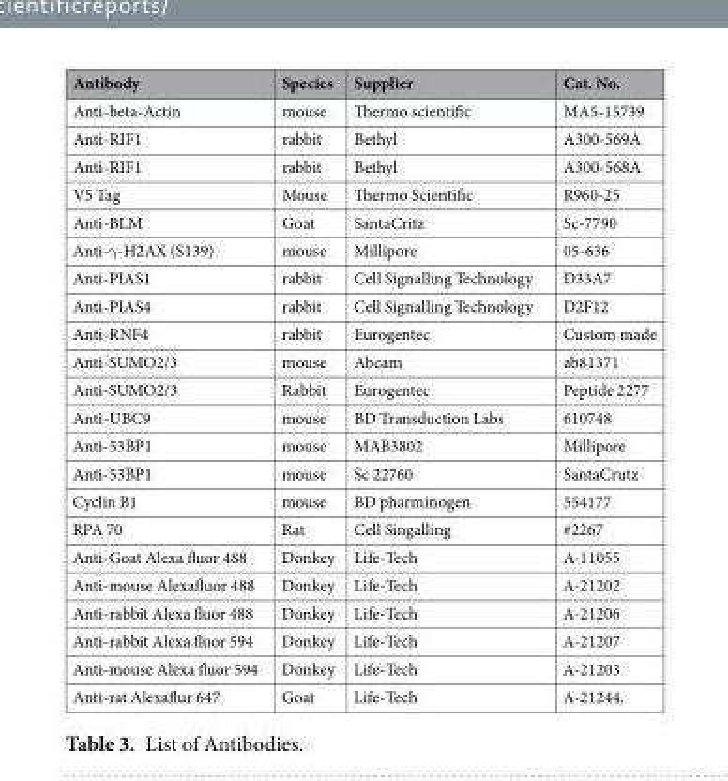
<table><thead><tr><td>Antibody</td><td>Species</td><td>Supplier</td><td>Cat. No.</td></tr></thead><tbody><tr><td>Anti-beta-Actin</td><td>mouse</td><td>Thermo scientific</td><td>MA5-15739</td></tr><tr><td>Anti-RIF1</td><td>rabbit</td><td>Bethyl</td><td>A300-569A</td></tr><tr><td>Anti-RIF1</td><td>rabbit</td><td>Bethyl</td><td>A300-568A</td></tr><tr><td>V5 Tag</td><td>Mouse</td><td>Thermo Scientific</td><td>R960-25</td></tr><tr><td>Anti-BLM</td><td>Goat</td><td>SantaCritz</td><td>Sc-7790</td></tr><tr><td>Anti-γ-H2AX (S139)</td><td>mouse</td><td>Millipore</td><td>05-636</td></tr><tr><td>Anti-PIAS1</td><td>rabbit</td><td>Cell Signalling Technology</td><td>D33A7</td></tr><tr><td>Anti-PIAS4</td><td>rabbit</td><td>Cell Signalling Technology</td><td>D2F12</td></tr><tr><td>Anti-RNF4</td><td>rabbit</td><td>Eurogentec</td><td>Custom made</td></tr><tr><td>Anti-SUMO2/3</td><td>mouse</td><td>Abcam</td><td>ab81371</td></tr><tr><td>Anti-SUMO2/3</td><td>Rabbit</td><td>Eurogentec</td><td>Peptide 2277</td></tr><tr><td>Anti-UBC9</td><td>mouse</td><td>BD Transduction Labs</td><td>610748</td></tr><tr><td>Anti-53BP1</td><td>mouse</td><td>MAB3802</td><td>Millipore</td></tr><tr><td>Anti-53BP1</td><td>mouse</td><td>Sc 22760</td><td>SantaCrutz</td></tr><tr><td>Cyclin B1</td><td>mouse</td><td>BD pharminogen</td><td>554177</td></tr><tr><td>RPA 70</td><td>Rat</td><td>Cell Singalling</td><td>#2267</td></tr><tr><td>Anti-Goat Alexa fluor 488</td><td>Donkey</td><td>Life-Tech</td><td>A-11055</td></tr><tr><td>Anti-mouse Alexafluor 488</td><td>Donkey</td><td>Life-Tech</td><td>A-21202</td></tr><tr><td>Anti-rabbit Alexa fluor 488</td><td>Donkey</td><td>Life-Tech</td><td>A-21206</td></tr><tr><td>Anti-rabbit Alexa fluor 594</td><td>Donkey</td><td>Life-Tech</td><td>A-21207</td></tr><tr><td>Anti-mouse Alexa fluor 594</td><td>Donkey</td><td>Life-Tech</td><td>A-21203</td></tr><tr><td>Anti-rat Alexaflur 647</td><td>Goat</td><td>Life-Tech</td><td>A-21244.</td></tr></tbody></table>